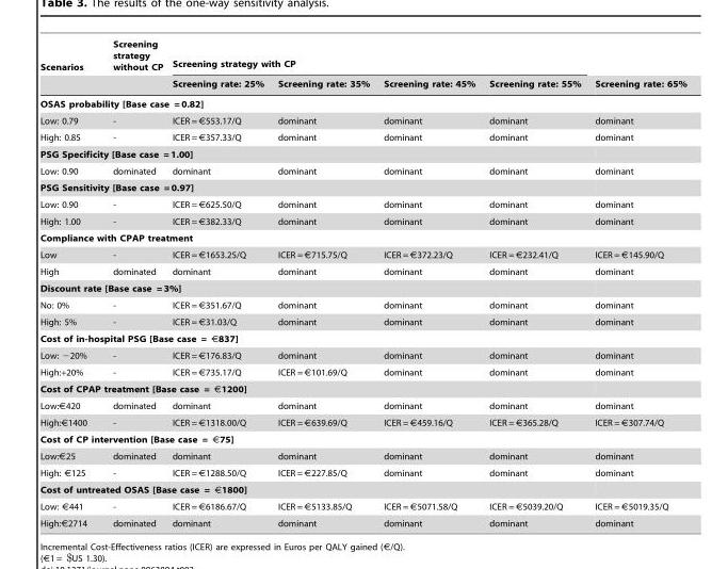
<table><thead><tr><td rowspan="2">Scenarios</td><td rowspan="2">Screening strategy without CP</td><td colspan="4">Screening strategy with CP</td><td rowspan="2">Screening rate: 65%</td></tr><tr><td>Screening rate: 25%</td><td>Screening rate: 35%</td><td>Screening rate: 45%</td><td>Screening rate: 55%</td></tr></thead><tbody><tr><td colspan="7">OSAS probability [Base case = 0.82]</td></tr><tr><td>Low: 0.79</td><td>-</td><td>ICER = €553.17/Q</td><td>dominant</td><td>dominant</td><td>dominant</td><td>dominant</td></tr><tr><td>High: 0.85</td><td>-</td><td>ICER = €357.33/Q</td><td>dominant</td><td>dominant</td><td>dominant</td><td>dominant</td></tr><tr><td colspan="7">PSG Specificity [Base case = 1.00]</td></tr><tr><td>Low: 0.90</td><td>dominated</td><td>dominant</td><td>dominant</td><td>dominant</td><td>dominant</td><td>dominant</td></tr><tr><td colspan="7">PSG Sensitivity [Base case = 0.97]</td></tr><tr><td>Low: 0.90</td><td>-</td><td>ICER = €625.50/Q</td><td>dominant</td><td>dominant</td><td>dominant</td><td>dominant</td></tr><tr><td>High: 1.00</td><td>-</td><td>ICER = €382.33/Q</td><td>dominant</td><td>dominant</td><td>dominant</td><td>dominant</td></tr><tr><td colspan="7">Compliance with CPAP treatment</td></tr><tr><td>Low</td><td>-</td><td>ICER = €1653.25/Q</td><td>ICER = €715.75/Q</td><td>ICER = €372.23/Q</td><td>ICER = €232.41/Q</td><td>ICER = €145.90/Q</td></tr><tr><td>High</td><td>dominated</td><td>dominant</td><td>dominant</td><td>dominant</td><td>dominant</td><td>dominant</td></tr><tr><td colspan="7">Discount rate [Base case = 3%]</td></tr><tr><td>No: 0%</td><td>-</td><td>ICER = €351.67/Q</td><td>dominant</td><td>dominant</td><td>dominant</td><td>dominant</td></tr><tr><td>High: 5%</td><td>-</td><td>ICER = €31.03/Q</td><td>dominant</td><td>dominant</td><td>dominant</td><td>dominant</td></tr><tr><td colspan="7">Cost of in-hospital PSG [Base case = €837]</td></tr><tr><td>Low: −20%</td><td>-</td><td>ICER = €176.83/Q</td><td>dominant</td><td>dominant</td><td>dominant</td><td>dominant</td></tr><tr><td>High:+20%</td><td>-</td><td>ICER = €735.17/Q</td><td>ICER = €101.69/Q</td><td>dominant</td><td>dominant</td><td>dominant</td></tr><tr><td colspan="7">Cost of CPAP treatment [Base case = €1200]</td></tr><tr><td>Low:€420</td><td>dominated</td><td>dominant</td><td>dominant</td><td>dominant</td><td>dominant</td><td>dominant</td></tr><tr><td>High:€1400</td><td>-</td><td>ICER = €1318.00/Q</td><td>ICER = €639.69/Q</td><td>ICER = €459.16/Q</td><td>ICER = €365.28/Q</td><td>ICER = €307.74/Q</td></tr><tr><td colspan="7">Cost of CP intervention [Base case = €75]</td></tr><tr><td>Low:€25</td><td>dominated</td><td>dominant</td><td>dominant</td><td>dominant</td><td>dominant</td><td>dominant</td></tr><tr><td>High: €125</td><td>-</td><td>ICER = €1288.50/Q</td><td>ICER = €227.85/Q</td><td>dominant</td><td>dominant</td><td>dominant</td></tr><tr><td colspan="7">Cost of untreated OSAS [Base case = €1800]</td></tr><tr><td>Low: €441</td><td>-</td><td>ICER = €6186.67/Q</td><td>ICER = €5133.85/Q</td><td>ICER = €5071.58/Q</td><td>ICER = €5039.20/Q</td><td>ICER = €5019.35/Q</td></tr><tr><td>High:€2714</td><td>dominated</td><td>dominant</td><td>dominant</td><td>dominant</td><td>dominant</td><td>dominant</td></tr></tbody></table>